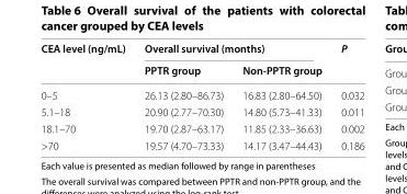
<table><thead><tr><td rowspan="2">CEA level (ng/mL)</td><td colspan="2">Overall survival (months)</td><td rowspan="2">P</td></tr><tr><td>PPTR group</td><td>Non‑PPTR group</td></tr></thead><tbody><tr><td>0–5</td><td>26.13 (2.80–86.73)</td><td>16.83 (2.80–64.50)</td><td>0.032</td></tr><tr><td>5.1–18</td><td>20.90 (2.77–70.30)</td><td>14.80 (5.73–41.33)</td><td>0.011</td></tr><tr><td>18.1–70</td><td>19.70 (2.87–63.17)</td><td>11.85 (2.33–36.63)</td><td>0.002</td></tr><tr><td>&gt;70</td><td>19.57 (4.70–73.33)</td><td>14.17 (3.47–44.43)</td><td>0.186</td></tr></tbody></table>